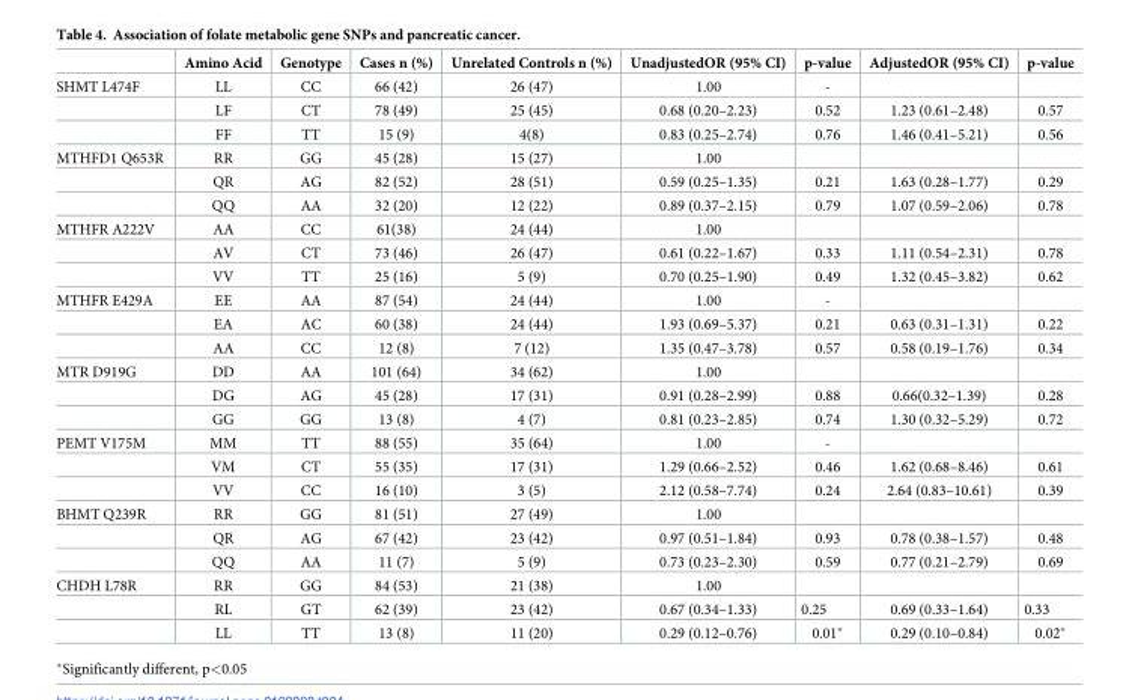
<table><thead><tr><td></td><td>Amino Acid</td><td>Genotype</td><td>Cases n (%)</td><td>Unrelated Controls n (%)</td><td>UnadjustedOR (95% CI)</td><td>p-value</td><td>AdjustedOR (95% CI)</td><td>p-value</td></tr></thead><tbody><tr><td rowspan="3">SHMT L474F</td><td>LL</td><td>CC</td><td>66 (42)</td><td>26 (47)</td><td>1.00</td><td>-</td><td></td><td></td></tr><tr><td>LF</td><td>CT</td><td>78 (49)</td><td>25 (45)</td><td>0.68 (0.20–2.23)</td><td>0.52</td><td>1.23 (0.61–2.48)</td><td>0.57</td></tr><tr><td>FF</td><td>TT</td><td>15 (9)</td><td>4(8)</td><td>0.83 (0.25–2.74)</td><td>0.76</td><td>1.46 (0.41–5.21)</td><td>0.56</td></tr><tr><td rowspan="3">MTHFD1 Q653R</td><td>RR</td><td>GG</td><td>45 (28)</td><td>15 (27)</td><td>1.00</td><td></td><td></td><td></td></tr><tr><td>QR</td><td>AG</td><td>82 (52)</td><td>28 (51)</td><td>0.59 (0.25–1.35)</td><td>0.21</td><td>1.63 (0.28–1.77)</td><td>0.29</td></tr><tr><td>QQ</td><td>AA</td><td>32 (20)</td><td>12 (22)</td><td>0.89 (0.37–2.15)</td><td>0.79</td><td>1.07 (0.59–2.06)</td><td>0.78</td></tr><tr><td rowspan="3">MTHFR A222V</td><td>AA</td><td>CC</td><td>61(38)</td><td>24 (44)</td><td>1.00</td><td></td><td></td><td></td></tr><tr><td>AV</td><td>CT</td><td>73 (46)</td><td>26 (47)</td><td>0.61 (0.22–1.67)</td><td>0.33</td><td>1.11 (0.54–2.31)</td><td>0.78</td></tr><tr><td>VV</td><td>TT</td><td>25 (16)</td><td>5 (9)</td><td>0.70 (0.25–1.90)</td><td>0.49</td><td>1.32 (0.45–3.82)</td><td>0.62</td></tr><tr><td rowspan="3">MTHFR E429A</td><td>EE</td><td>AA</td><td>87 (54)</td><td>24 (44)</td><td>1.00</td><td>-</td><td></td><td></td></tr><tr><td>EA</td><td>AC</td><td>60 (38)</td><td>24 (44)</td><td>1.93 (0.69–5.37)</td><td>0.21</td><td>0.63 (0.31–1.31)</td><td>0.22</td></tr><tr><td>AA</td><td>CC</td><td>12 (8)</td><td>7 (12)</td><td>1.35 (0.47–3.78)</td><td>0.57</td><td>0.58 (0.19–1.76)</td><td>0.34</td></tr><tr><td rowspan="3">MTR D919G</td><td>DD</td><td>AA</td><td>101 (64)</td><td>34 (62)</td><td>1.00</td><td></td><td></td><td></td></tr><tr><td>DG</td><td>AG</td><td>45 (28)</td><td>17 (31)</td><td>0.91 (0.28–2.99)</td><td>0.88</td><td>0.66(0.32–1.39)</td><td>0.28</td></tr><tr><td>GG</td><td>GG</td><td>13 (8)</td><td>4 (7)</td><td>0.81 (0.23–2.85)</td><td>0.74</td><td>1.30 (0.32–5.29)</td><td>0.72</td></tr><tr><td rowspan="3">PEMT V175M</td><td>MM</td><td>TT</td><td>88 (55)</td><td>35 (64)</td><td>1.00</td><td>-</td><td></td><td></td></tr><tr><td>VM</td><td>CT</td><td>55 (35)</td><td>17 (31)</td><td>1.29 (0.66–2.52)</td><td>0.46</td><td>1.62 (0.68–8.46)</td><td>0.61</td></tr><tr><td>VV</td><td>CC</td><td>16 (10)</td><td>3 (5)</td><td>2.12 (0.58–7.74)</td><td>0.24</td><td>2.64 (0.83–10.61)</td><td>0.39</td></tr><tr><td rowspan="3">BHMT Q239R</td><td>RR</td><td>GG</td><td>81 (51)</td><td>27 (49)</td><td>1.00</td><td></td><td></td><td></td></tr><tr><td>QR</td><td>AG</td><td>67 (42)</td><td>23 (42)</td><td>0.97 (0.51–1.84)</td><td>0.93</td><td>0.78 (0.38–1.57)</td><td>0.48</td></tr><tr><td>QQ</td><td>AA</td><td>11 (7)</td><td>5 (9)</td><td>0.73 (0.23–2.30)</td><td>0.59</td><td>0.77 (0.21–2.79)</td><td>0.69</td></tr><tr><td rowspan="3">CHDH L78R</td><td>RR</td><td>GG</td><td>84 (53)</td><td>21 (38)</td><td>1.00</td><td></td><td></td><td></td></tr><tr><td>RL</td><td>GT</td><td>62 (39)</td><td>23 (42)</td><td>0.67 (0.34–1.33)</td><td>0.25</td><td>0.69 (0.33–1.64)</td><td>0.33</td></tr><tr><td>LL</td><td>TT</td><td>13 (8)</td><td>11 (20)</td><td>0.29 (0.12–0.76)</td><td>0.01*</td><td>0.29 (0.10–0.84)</td><td>0.02*</td></tr></tbody></table>